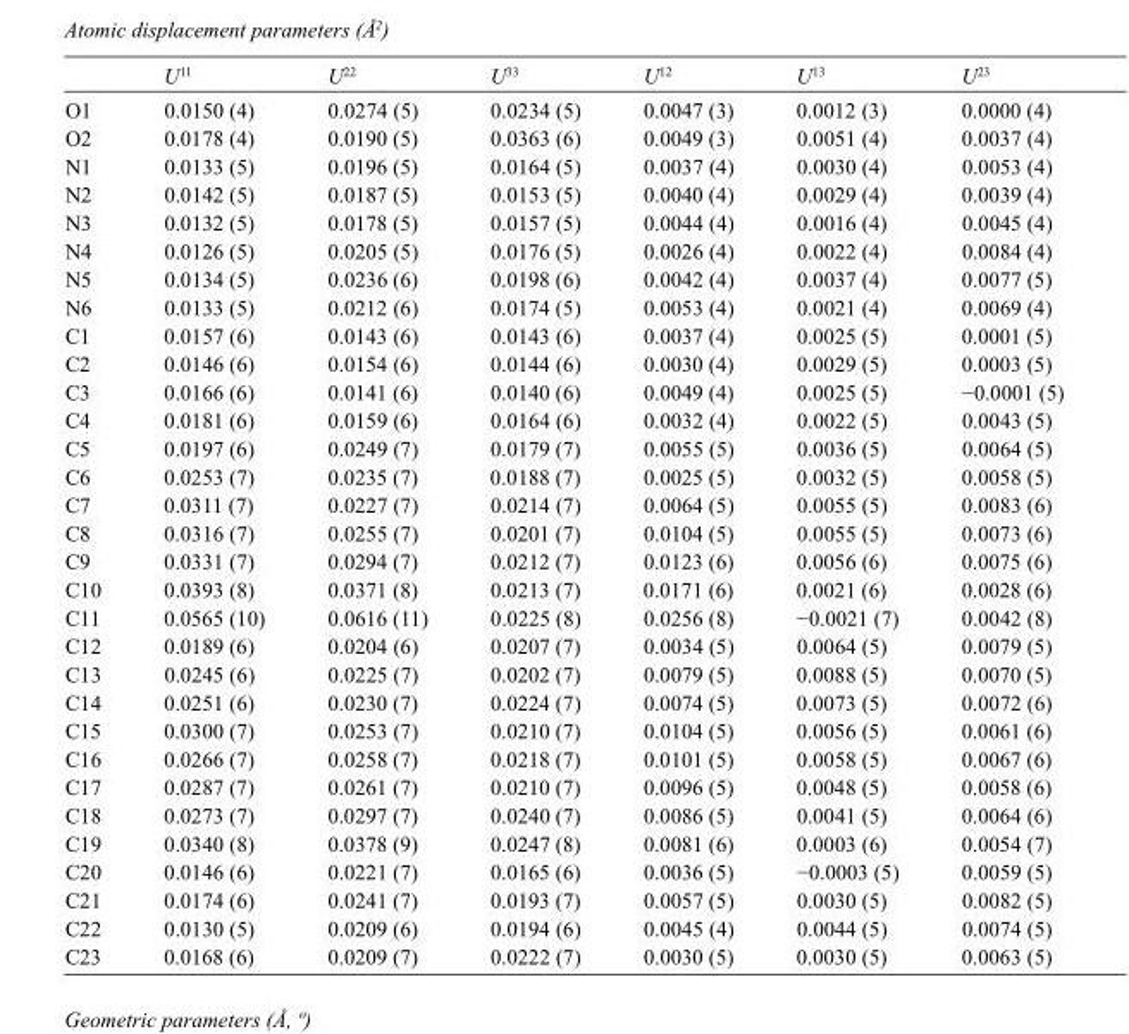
<table><thead><tr><td></td><td>U<sup>11</sup></td><td>U<sup>22</sup></td><td>U<sup>33</sup></td><td>U<sup>12</sup></td><td>U<sup>13</sup></td><td>U<sup>23</sup></td></tr></thead><tbody><tr><td>O1</td><td>0.0150 (4)</td><td>0.0274 (5)</td><td>0.0234 (5)</td><td>0.0047 (3)</td><td>0.0012 (3)</td><td>0.0000 (4)</td></tr><tr><td>O2</td><td>0.0178 (4)</td><td>0.0190 (5)</td><td>0.0363 (6)</td><td>0.0049 (3)</td><td>0.0051 (4)</td><td>0.0037 (4)</td></tr><tr><td>N1</td><td>0.0133 (5)</td><td>0.0196 (5)</td><td>0.0164 (5)</td><td>0.0037 (4)</td><td>0.0030 (4)</td><td>0.0053 (4)</td></tr><tr><td>N2</td><td>0.0142 (5)</td><td>0.0187 (5)</td><td>0.0153 (5)</td><td>0.0040 (4)</td><td>0.0029 (4)</td><td>0.0039 (4)</td></tr><tr><td>N3</td><td>0.0132 (5)</td><td>0.0178 (5)</td><td>0.0157 (5)</td><td>0.0044 (4)</td><td>0.0016 (4)</td><td>0.0045 (4)</td></tr><tr><td>N4</td><td>0.0126 (5)</td><td>0.0205 (5)</td><td>0.0176 (5)</td><td>0.0026 (4)</td><td>0.0022 (4)</td><td>0.0084 (4)</td></tr><tr><td>N5</td><td>0.0134 (5)</td><td>0.0236 (6)</td><td>0.0198 (6)</td><td>0.0042 (4)</td><td>0.0037 (4)</td><td>0.0077 (5)</td></tr><tr><td>N6</td><td>0.0133 (5)</td><td>0.0212 (6)</td><td>0.0174 (5)</td><td>0.0053 (4)</td><td>0.0021 (4)</td><td>0.0069 (4)</td></tr><tr><td>C1</td><td>0.0157 (6)</td><td>0.0143 (6)</td><td>0.0143 (6)</td><td>0.0037 (4)</td><td>0.0025 (5)</td><td>0.0001 (5)</td></tr><tr><td>C2</td><td>0.0146 (6)</td><td>0.0154 (6)</td><td>0.0144 (6)</td><td>0.0030 (4)</td><td>0.0029 (5)</td><td>0.0003 (5)</td></tr><tr><td>C3</td><td>0.0166 (6)</td><td>0.0141 (6)</td><td>0.0140 (6)</td><td>0.0049 (4)</td><td>0.0025 (5)</td><td>−0.0001 (5)</td></tr><tr><td>C4</td><td>0.0181 (6)</td><td>0.0159 (6)</td><td>0.0164 (6)</td><td>0.0032 (4)</td><td>0.0022 (5)</td><td>0.0043 (5)</td></tr><tr><td>C5</td><td>0.0197 (6)</td><td>0.0249 (7)</td><td>0.0179 (7)</td><td>0.0055 (5)</td><td>0.0036 (5)</td><td>0.0064 (5)</td></tr><tr><td>C6</td><td>0.0253 (7)</td><td>0.0235 (7)</td><td>0.0188 (7)</td><td>0.0025 (5)</td><td>0.0032 (5)</td><td>0.0058 (5)</td></tr><tr><td>C7</td><td>0.0311 (7)</td><td>0.0227 (7)</td><td>0.0214 (7)</td><td>0.0064 (5)</td><td>0.0055 (5)</td><td>0.0083 (6)</td></tr><tr><td>C8</td><td>0.0316 (7)</td><td>0.0255 (7)</td><td>0.0201 (7)</td><td>0.0104 (5)</td><td>0.0055 (5)</td><td>0.0073 (6)</td></tr><tr><td>C9</td><td>0.0331 (7)</td><td>0.0294 (7)</td><td>0.0212 (7)</td><td>0.0123 (6)</td><td>0.0056 (6)</td><td>0.0075 (6)</td></tr><tr><td>C10</td><td>0.0393 (8)</td><td>0.0371 (8)</td><td>0.0213 (7)</td><td>0.0171 (6)</td><td>0.0021 (6)</td><td>0.0028 (6)</td></tr><tr><td>C11</td><td>0.0565 (10)</td><td>0.0616 (11)</td><td>0.0225 (8)</td><td>0.0256 (8)</td><td>−0.0021 (7)</td><td>0.0042 (8)</td></tr><tr><td>C12</td><td>0.0189 (6)</td><td>0.0204 (6)</td><td>0.0207 (7)</td><td>0.0034 (5)</td><td>0.0064 (5)</td><td>0.0079 (5)</td></tr><tr><td>C13</td><td>0.0245 (6)</td><td>0.0225 (7)</td><td>0.0202 (7)</td><td>0.0079 (5)</td><td>0.0088 (5)</td><td>0.0070 (5)</td></tr><tr><td>C14</td><td>0.0251 (6)</td><td>0.0230 (7)</td><td>0.0224 (7)</td><td>0.0074 (5)</td><td>0.0073 (5)</td><td>0.0072 (6)</td></tr><tr><td>C15</td><td>0.0300 (7)</td><td>0.0253 (7)</td><td>0.0210 (7)</td><td>0.0104 (5)</td><td>0.0056 (5)</td><td>0.0061 (6)</td></tr><tr><td>C16</td><td>0.0266 (7)</td><td>0.0258 (7)</td><td>0.0218 (7)</td><td>0.0101 (5)</td><td>0.0058 (5)</td><td>0.0067 (6)</td></tr><tr><td>C17</td><td>0.0287 (7)</td><td>0.0261 (7)</td><td>0.0210 (7)</td><td>0.0096 (5)</td><td>0.0048 (5)</td><td>0.0058 (6)</td></tr><tr><td>C18</td><td>0.0273 (7)</td><td>0.0297 (7)</td><td>0.0240 (7)</td><td>0.0086 (5)</td><td>0.0041 (5)</td><td>0.0064 (6)</td></tr><tr><td>C19</td><td>0.0340 (8)</td><td>0.0378 (9)</td><td>0.0247 (8)</td><td>0.0081 (6)</td><td>0.0003 (6)</td><td>0.0054 (7)</td></tr><tr><td>C20</td><td>0.0146 (6)</td><td>0.0221 (7)</td><td>0.0165 (6)</td><td>0.0036 (5)</td><td>−0.0003 (5)</td><td>0.0059 (5)</td></tr><tr><td>C21</td><td>0.0174 (6)</td><td>0.0241 (7)</td><td>0.0193 (7)</td><td>0.0057 (5)</td><td>0.0030 (5)</td><td>0.0082 (5)</td></tr><tr><td>C22</td><td>0.0130 (5)</td><td>0.0209 (6)</td><td>0.0194 (6)</td><td>0.0045 (4)</td><td>0.0044 (5)</td><td>0.0074 (5)</td></tr><tr><td>C23</td><td>0.0168 (6)</td><td>0.0209 (7)</td><td>0.0222 (7)</td><td>0.0030 (5)</td><td>0.0030 (5)</td><td>0.0063 (5)</td></tr></tbody></table>